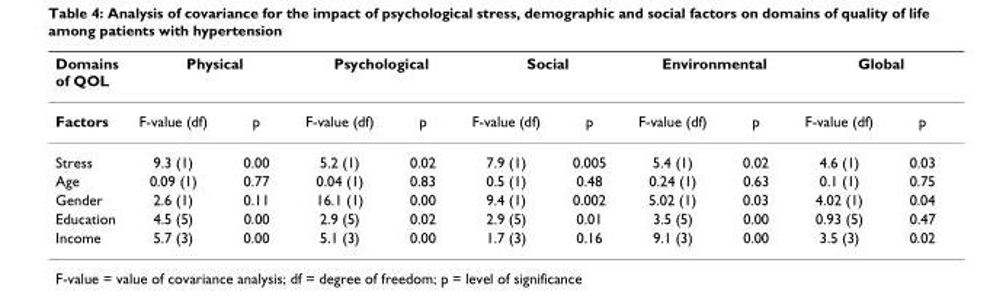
<table><thead><tr><td rowspan="2">Domains of QOL Factors</td><td colspan="2">Physical</td><td colspan="2">Psychological</td><td colspan="2">Social</td><td colspan="2">Environmental</td><td colspan="2">Global</td></tr><tr><td>F-value (df)</td><td>p</td><td>F-value (df)</td><td>p</td><td>F-value (df)</td><td>p</td><td>F-value (df)</td><td>p</td><td>F-value (df)</td><td>p</td></tr></thead><tbody><tr><td>Stress</td><td>9.3 (1)</td><td>0.00</td><td>5.2 (1)</td><td>0.02</td><td>7.9 (1)</td><td>0.005</td><td>5.4 (1)</td><td>0.02</td><td>4.6 (1)</td><td>0.03</td></tr><tr><td>Age</td><td>0.09 (1)</td><td>0.77</td><td>0.04 (1)</td><td>0.83</td><td>0.5 (1)</td><td>0.48</td><td>0.24 (1)</td><td>0.63</td><td>0.1 (1)</td><td>0.75</td></tr><tr><td>Gender</td><td>2.6 (1)</td><td>0.11</td><td>16.1 (1)</td><td>0.00</td><td>9.4 (1)</td><td>0.002</td><td>5.02 (1)</td><td>0.03</td><td>4.02 (1)</td><td>0.04</td></tr><tr><td>Education</td><td>4.5 (5)</td><td>0.00</td><td>2.9 (5)</td><td>0.02</td><td>2.9 (5)</td><td>0.01</td><td>3.5 (5)</td><td>0.00</td><td>0.93 (5)</td><td>0.47</td></tr><tr><td>Income</td><td>5.7 (3)</td><td>0.00</td><td>5.1 (3)</td><td>0.00</td><td>1.7 (3)</td><td>0.16</td><td>9.1 (3)</td><td>0.00</td><td>3.5 (3)</td><td>0.02</td></tr></tbody></table>